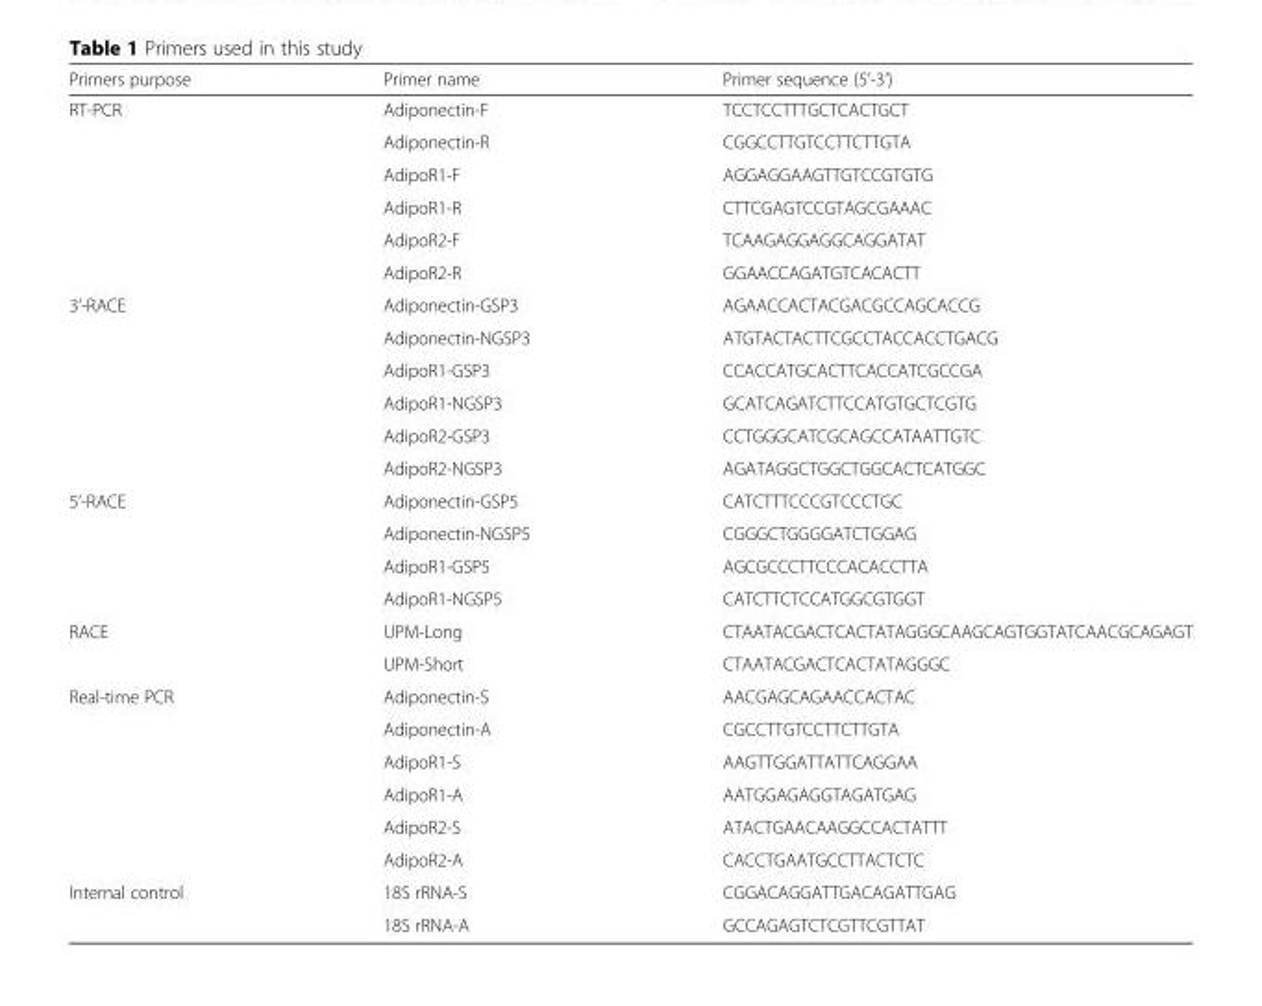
<table><thead><tr><td>Primers purpose</td><td>Primer name</td><td>Primer sequence (5’-3’)</td></tr></thead><tbody><tr><td rowspan="6">RT-PCR</td><td>Adiponectin-F</td><td>TCCTCCTTTGCTCACTGCT</td></tr><tr><td>Adiponectin-R</td><td>CGGCCTTGTCCTTCTTGTA</td></tr><tr><td>AdipoR1-F</td><td>AGGAGGAAGTTGTCCGTGTG</td></tr><tr><td>AdipoR1-R</td><td>CTTCGAGTCCGTAGCGAAAC</td></tr><tr><td>AdipoR2-F</td><td>TCAAGAGGAGGCAGGATAT</td></tr><tr><td>AdipoR2-R</td><td>GGAACCAGATGTCACACTT</td></tr><tr><td rowspan="6">3’-RACE</td><td>Adiponectin-GSP3</td><td>AGAACCACTACGACGCCAGCACCG</td></tr><tr><td>Adiponectin-NGSP3</td><td>ATGTACTACTTCGCCTACCACCTGACG</td></tr><tr><td>AdipoR1-GSP3</td><td>CCACCATGCACTTCACCATCGCCGA</td></tr><tr><td>AdipoR1-NGSP3</td><td>GCATCAGATCTTCCATGTGCTCGTG</td></tr><tr><td>AdipoR2-GSP3</td><td>CCTGGGCATCGCAGCCATAATTGTC</td></tr><tr><td>AdipoR2-NGSP3</td><td>AGATAGGCTGGCTGGCACTCATGGC</td></tr><tr><td rowspan="4">5’-RACE</td><td>Adiponectin-GSP5</td><td>CATCTTTCCCGTCCCTGC</td></tr><tr><td>Adiponectin-NGSP5</td><td>CGGGCTGGGGATCTGGAG</td></tr><tr><td>AdipoR1-GSP5</td><td>AGCGCCCTTCCCACACCTTA</td></tr><tr><td>AdipoR1-NGSP5</td><td>CATCTTCTCCATGGCGTGGT</td></tr><tr><td rowspan="2">RACE</td><td>UPM-Long</td><td>CTAATACGACTCACTATAGGGCAAGCAGTGGTATCAACGCAGAGT</td></tr><tr><td>UPM-Short</td><td>CTAATACGACTCACTATAGGGC</td></tr><tr><td rowspan="6">Real-time PCR</td><td>Adiponectin-S</td><td>AACGAGCAGAACCACTAC</td></tr><tr><td>Adiponectin-A</td><td>CGCCTTGTCCTTCTTGTA</td></tr><tr><td>AdipoR1-S</td><td>AAGTTGGATTATTCAGGAA</td></tr><tr><td>AdipoR1-A</td><td>AATGGAGAGGTAGATGAG</td></tr><tr><td>AdipoR2-S</td><td>ATACTGAACAAGGCCACTATTT</td></tr><tr><td>AdipoR2-A</td><td>CACCTGAATGCCTTACTCTC</td></tr><tr><td rowspan="2">Internal control</td><td>18S rRNA-S</td><td>CGGACAGGATTGACAGATTGAG</td></tr><tr><td>18S rRNA-A</td><td>GCCAGAGTCTCGTTCGTTAT</td></tr></tbody></table>